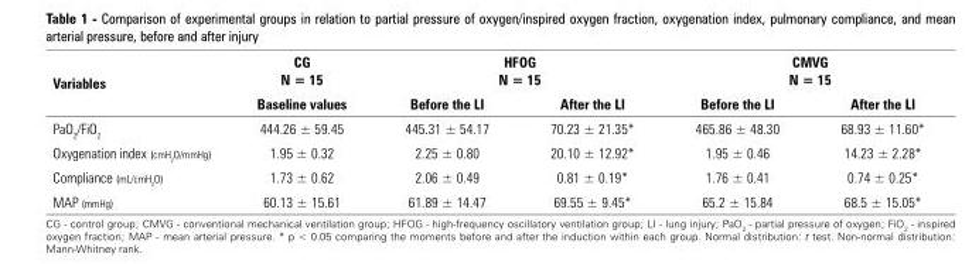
<table><thead><tr><td rowspan="2">Variables</td><td rowspan="2">CG N = 15 Baseline values</td><td colspan="2">HFOG N = 15</td><td colspan="2">CMVG N = 15</td></tr><tr><td>Before the LI</td><td>After the LI</td><td>Before the LI</td><td>After the LI</td></tr></thead><tbody><tr><td>PaO<sub>2</sub>/FiO<sub>2</sub></td><td>444.26 ± 59.45</td><td>445.31 ± 54.17</td><td>70.23 ± 21.35*</td><td>465.86 ± 48.30</td><td>68.93 ± 11.60*</td></tr><tr><td>Oxygenation index (cmH<sub>2</sub>O/mmHg)</td><td>1.95 ± 0.32</td><td>2.25 ± 0.80</td><td>20.10 ± 12.92*</td><td>1.95 ± 0.46</td><td>14.23 ± 2.28*</td></tr><tr><td>Compliance (mL/cmH<sub>2</sub>O)</td><td>1.73 ± 0.62</td><td>2.06 ± 0.49</td><td>0.81 ± 0.19*</td><td>1.76 ± 0.41</td><td>0.74 ± 0.25*</td></tr><tr><td>MAP (mmHg)</td><td>60.13 ± 15.61</td><td>61.89 ± 14.47</td><td>69.55 ± 9.45*</td><td>65.2 ± 15.84</td><td>68.5 ± 15.05*</td></tr></tbody></table>